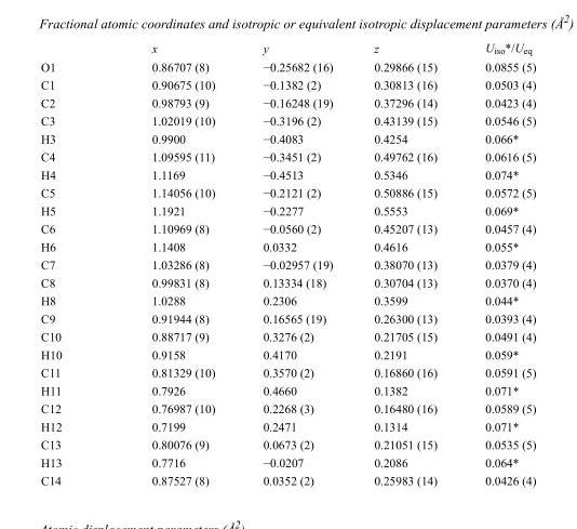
<table><thead><tr><td></td><td>x</td><td>y</td><td>z</td><td>U<sub>iso</sub>*/U<sub>eq</sub></td></tr></thead><tbody><tr><td>O1</td><td>0.86707 (8)</td><td>−0.25682 (16)</td><td>0.29866 (15)</td><td>0.0855 (5)</td></tr><tr><td>C1</td><td>0.90675 (10)</td><td>−0.1382 (2)</td><td>0.30813 (16)</td><td>0.0503 (4)</td></tr><tr><td>C2</td><td>0.98793 (9)</td><td>−0.16248 (19)</td><td>0.37296 (14)</td><td>0.0423 (4)</td></tr><tr><td>C3</td><td>1.02019 (10)</td><td>−0.3196 (2)</td><td>0.43139 (15)</td><td>0.0546 (5)</td></tr><tr><td>H3</td><td>0.9900</td><td>−0.4083</td><td>0.4254</td><td>0.066*</td></tr><tr><td>C4</td><td>1.09595 (11)</td><td>−0.3451 (2)</td><td>0.49762 (16)</td><td>0.0616 (5)</td></tr><tr><td>H4</td><td>1.1169</td><td>−0.4513</td><td>0.5346</td><td>0.074*</td></tr><tr><td>C5</td><td>1.14056 (10)</td><td>−0.2121 (2)</td><td>0.50886 (15)</td><td>0.0572 (5)</td></tr><tr><td>H5</td><td>1.1921</td><td>−0.2277</td><td>0.5553</td><td>0.069*</td></tr><tr><td>C6</td><td>1.10969 (8)</td><td>−0.0560 (2)</td><td>0.45207 (13)</td><td>0.0457 (4)</td></tr><tr><td>H6</td><td>1.1408</td><td>0.0332</td><td>0.4616</td><td>0.055*</td></tr><tr><td>C7</td><td>1.03286 (8)</td><td>−0.02957 (19)</td><td>0.38070 (13)</td><td>0.0379 (4)</td></tr><tr><td>C8</td><td>0.99831 (8)</td><td>0.13334 (18)</td><td>0.30704 (13)</td><td>0.0370 (4)</td></tr><tr><td>H8</td><td>1.0288</td><td>0.2306</td><td>0.3599</td><td>0.044*</td></tr><tr><td>C9</td><td>0.91944 (8)</td><td>0.16565 (19)</td><td>0.26300 (13)</td><td>0.0393 (4)</td></tr><tr><td>C10</td><td>0.88717 (9)</td><td>0.3276 (2)</td><td>0.21705 (15)</td><td>0.0491 (4)</td></tr><tr><td>H10</td><td>0.9158</td><td>0.4170</td><td>0.2191</td><td>0.059*</td></tr><tr><td>C11</td><td>0.81329 (10)</td><td>0.3570 (2)</td><td>0.16860 (16)</td><td>0.0591 (5)</td></tr><tr><td>H11</td><td>0.7926</td><td>0.4660</td><td>0.1382</td><td>0.071*</td></tr><tr><td>C12</td><td>0.76987 (10)</td><td>0.2268 (3)</td><td>0.16480 (16)</td><td>0.0589 (5)</td></tr><tr><td>H12</td><td>0.7199</td><td>0.2471</td><td>0.1314</td><td>0.071*</td></tr><tr><td>C13</td><td>0.80076 (9)</td><td>0.0673 (2)</td><td>0.21051 (15)</td><td>0.0535 (5)</td></tr><tr><td>H13</td><td>0.7716</td><td>−0.0207</td><td>0.2086</td><td>0.064*</td></tr><tr><td>C14</td><td>0.87527 (8)</td><td>0.0352 (2)</td><td>0.25983 (14)</td><td>0.0426 (4)</td></tr></tbody></table>